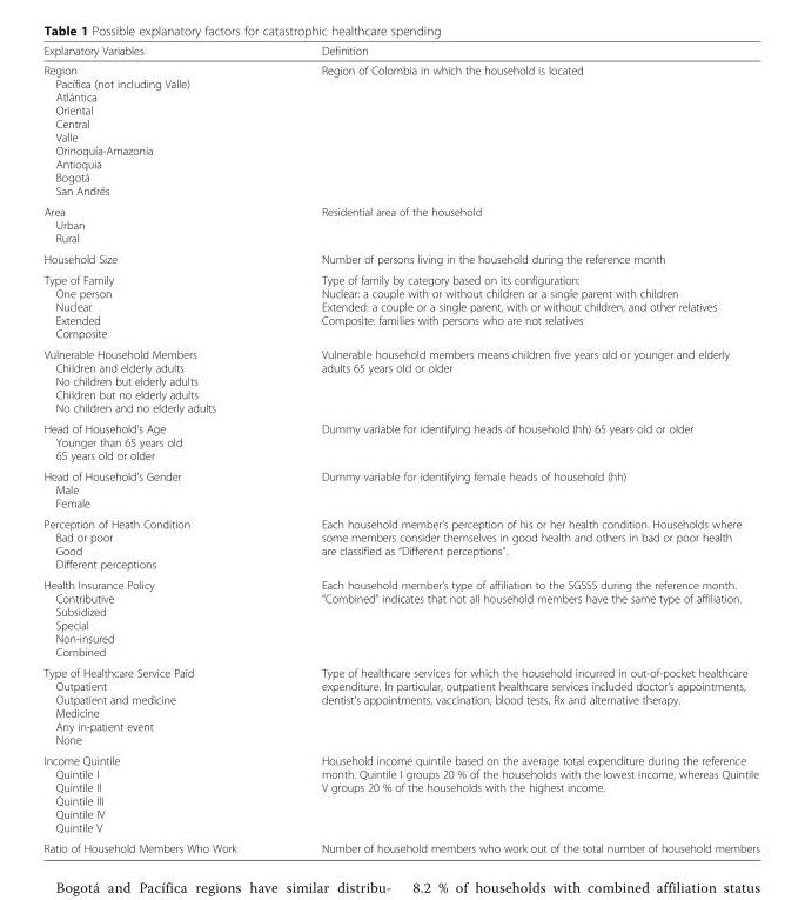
<table><thead><tr><td>Explanatory Variables</td><td>Definition</td></tr></thead><tbody><tr><td>Region Pacífica (not including Valle) Atlántica Oriental Central Valle Orinoquía-Amazonía Antioquia Bogotá San Andrés</td><td>Region of Colombia in which the household is located</td></tr><tr><td>Area Urban Rural</td><td>Residential area of the household</td></tr><tr><td>Household Size</td><td>Number of persons living in the household during the reference month</td></tr><tr><td>Type of Family One person Nuclear Extended Composite</td><td>Type of family by category based on its configuration: Nuclear: a couple with or without children or a single parent with children Extended: a couple or a single parent, with or without children, and other relatives Composite: families with persons who are not relatives</td></tr><tr><td>Vulnerable Household Members Children and elderly adults No children but elderly adults Children but no elderly adults No children and no elderly adults</td><td>Vulnerable household members means children five years old or younger and elderly adults 65 years old or older</td></tr><tr><td>Head of Household’s Age Younger than 65 years old 65 years old or older</td><td>Dummy variable for identifying heads of household (hh) 65 years old or older</td></tr><tr><td>Head of Household’s Gender Male Female</td><td>Dummy variable for identifying female heads of household (hh)</td></tr><tr><td>Perception of Heath Condition Bad or poor Good Different perceptions</td><td>Each household member’s perception of his or her health condition. Households where some members consider themselves in good health and others in bad or poor health are classified as “Different perceptions”.</td></tr><tr><td>Health Insurance Policy Contributive Subsidized Special Non-insured Combined</td><td>Each household member’s type of affiliation to the SGSSS during the reference month. “Combined” indicates that not all household members have the same type of affiliation.</td></tr><tr><td>Type of Healthcare Service Paid Outpatient Outpatient and medicine Medicine Any in-patient event None</td><td>Type of healthcare services for which the household incurred in out-of-pocket healthcare expenditure. In particular, outpatient healthcare services included doctor’s appointments, dentist’s appointments, vaccination, blood tests, Rx and alternative therapy.</td></tr><tr><td>Income Quintile Quintile I Quintile II Quintile III Quintile IV Quintile V</td><td>Household income quintile based on the average total expenditure during the reference month. Quintile I groups 20 % of the households with the lowest income, whereas Quintile V groups 20 % of the households with the highest income.</td></tr><tr><td>Ratio of Household Members Who Work</td><td>Number of household members who work out of the total number of household members</td></tr></tbody></table>